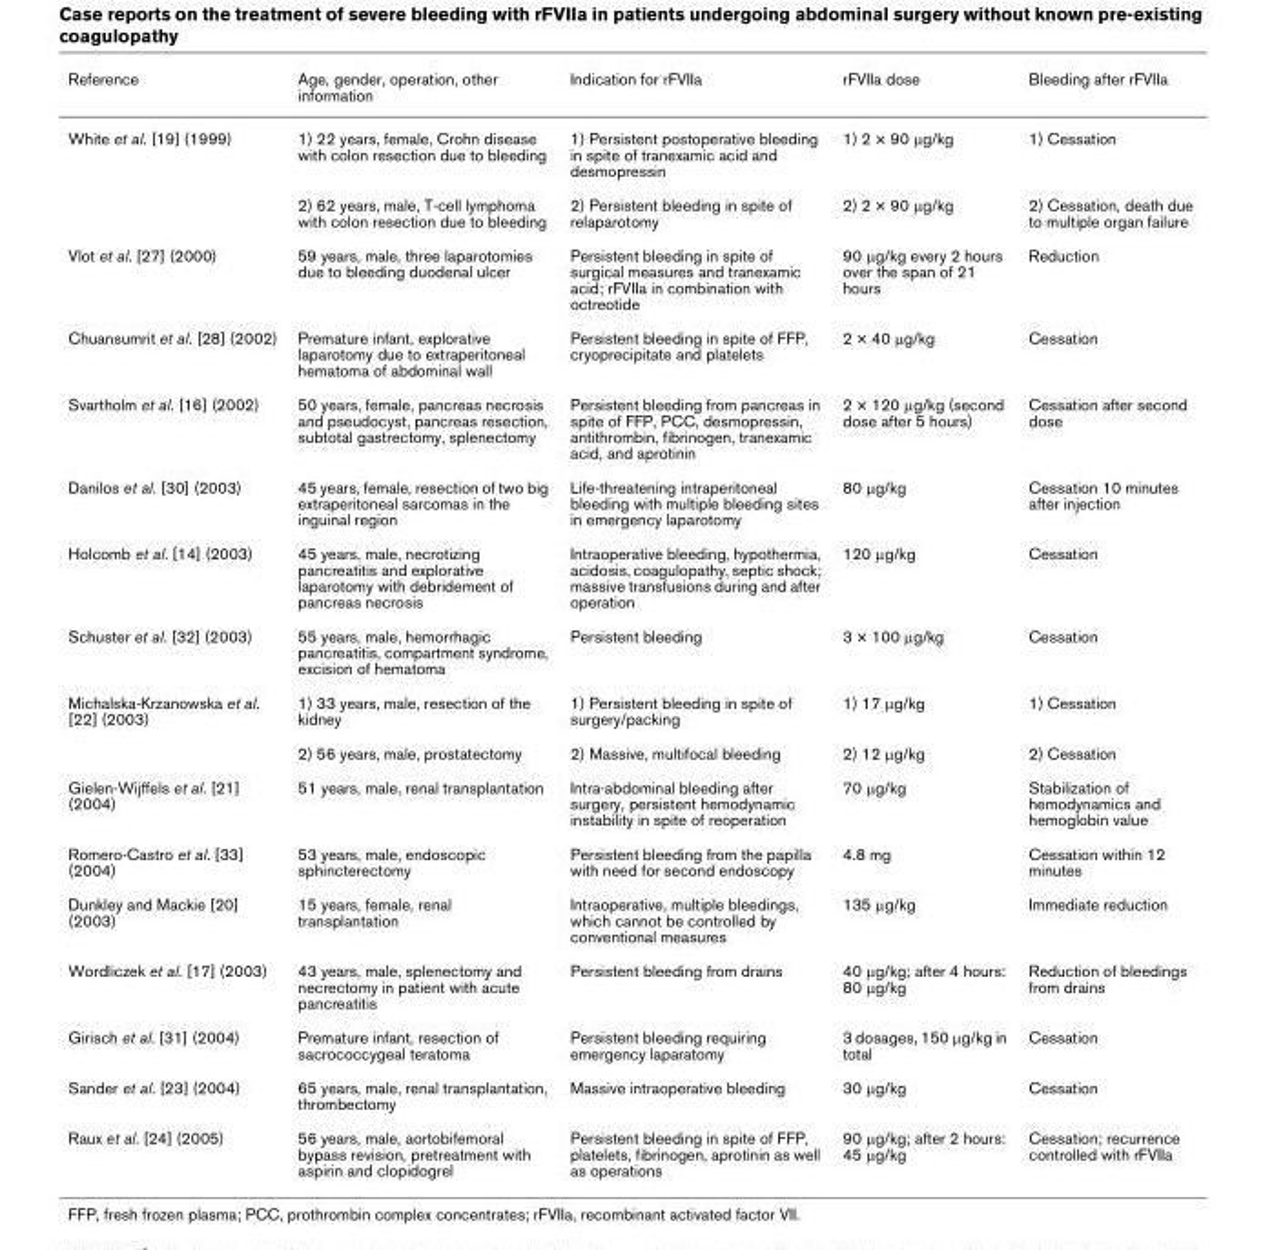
<table><thead><tr><td>Reference</td><td>Age, gender, operation, other information</td><td>Indication for rFVIIa</td><td>rFVIIa dose</td><td>Bleeding after rFVIIa</td></tr></thead><tbody><tr><td rowspan="2">White et al. [19] (1999)</td><td>1) 22 years, female, Crohn disease with colon resection due to bleeding</td><td>1) Persistent postoperative bleeding in spite of tranexamic acid and desmopressin</td><td>1) 2 × 90 μg/kg</td><td>1) Cessation</td></tr><tr><td>2) 62 years, male, T-cell lymphoma with colon resection due to bleeding</td><td>2) Persistent bleeding in spite of relaparotomy</td><td>2) 2 × 90 μg/kg</td><td>2) Cessation, death due to multiple organ failure</td></tr><tr><td>Vlot et al. [27] (2000)</td><td>59 years, male, three laparotomies due to bleeding duodenal ulcer</td><td>Persistent bleeding in spite of surgical measures and tranexamic acid; rFVIIa in combination with octreotide</td><td>90 μg/kg every 2 hours over the span of 21 hours</td><td>Reduction</td></tr><tr><td>Chuansumrit et al. [28] (2002)</td><td>Premature infant, explorative laparotomy due to extraperitoneal hematoma of abdominal wall</td><td>Persistent bleeding in spite of FFP, cryoprecipitate and platelets</td><td>2 × 40 μg/kg</td><td>Cessation</td></tr><tr><td>Svartholm et al. [16] (2002)</td><td>50 years, female, pancreas necrosis and pseudocyst, pancreas resection, subtotal gastrectomy, splenectomy</td><td>Persistent bleeding from pancreas in spite of FFP, PCC, desmopressin, antithrombin, fibrinogen, tranexamic acid, and aprotinin</td><td>2 × 120 μg/kg (second dose after 5 hours)</td><td>Cessation after second dose</td></tr><tr><td>Danilos et al. [30] (2003)</td><td>45 years, female, resection of two big extraperitoneal sarcomas in the inguinal region</td><td>Life-threatening intraperitoneal bleeding with multiple bleeding sites in emergency laparotomy</td><td>80 μg/kg</td><td>Cessation 10 minutes after injection</td></tr><tr><td>Holcomb et al. [14] (2003)</td><td>45 years, male, necrotizing pancreatitis and explorative laparotomy with debridement of pancreas necrosis</td><td>Intraoperative bleeding, hypothermia, acidosis, coagulopathy, septic shock; massive transfusions during and after operation</td><td>120 μg/kg</td><td>Cessation</td></tr><tr><td>Schuster et al. [32] (2003)</td><td>55 years, male, hemorrhagic pancreatitis, compartment syndrome, excision of hematoma</td><td>Persistent bleeding</td><td>3 × 100 μg/kg</td><td>Cessation</td></tr><tr><td rowspan="2">Michalska-Krzanowska et al. [22] (2003)</td><td>1) 33 years, male, resection of the kidney</td><td>1) Persistent bleeding in spite of surgery/packing</td><td>1) 17 μg/kg</td><td>1) Cessation</td></tr><tr><td>2) 56 years, male, prostatectomy</td><td>2) Massive, multifocal bleeding</td><td>2) 12 μg/kg</td><td>2) Cessation</td></tr><tr><td>Gielen-Wijffels et al. [21] (2004)</td><td>51 years, male, renal transplantation</td><td>Intra-abdominal bleeding after surgery, persistent hemodynamic instability in spite of reoperation</td><td>70 μg/kg</td><td>Stabilization of hemodynamics and hemoglobin value</td></tr><tr><td>Romero-Castro et al. [33] (2004)</td><td>53 years, male, endoscopic sphincterectomy</td><td>Persistent bleeding from the papilla with need for second endoscopy</td><td>4.8 mg</td><td>Cessation within 12 minutes</td></tr><tr><td>Dunkley and Mackie [20] (2003)</td><td>15 years, female, renal transplantation</td><td>Intraoperative, multiple bleedings, which cannot be controlled by conventional measures</td><td>135 μg/kg</td><td>Immediate reduction</td></tr><tr><td>Wordliczek et al. [17] (2003)</td><td>43 years, male, splenectomy and necrectomy in patient with acute pancreatitis</td><td>Persistent bleeding from drains</td><td>40 μg/kg; after 4 hours: 80 μg/kg</td><td>Reduction of bleedings from drains</td></tr><tr><td>Girisch et al. [31] (2004)</td><td>Premature infant, resection of sacrococcygeal teratoma</td><td>Persistent bleeding requiring emergency laparatomy</td><td>3 dosages, 150 μg/kg in total</td><td>Cessation</td></tr><tr><td>Sander et al. [23] (2004)</td><td>65 years, male, renal transplantation, thrombectomy</td><td>Massive intraoperative bleeding</td><td>30 μg/kg</td><td>Cessation</td></tr><tr><td>Raux et al. [24] (2005)</td><td>56 years, male, aortobifemoral bypass revision, pretreatment with aspirin and clopidogrel</td><td>Persistent bleeding in spite of FFP, platelets, fibrinogen, aprotinin as well as operations</td><td>90 μg/kg; after 2 hours: 45 μg/kg</td><td>Cessation; recurrence controlled with rFVIIa</td></tr></tbody></table>